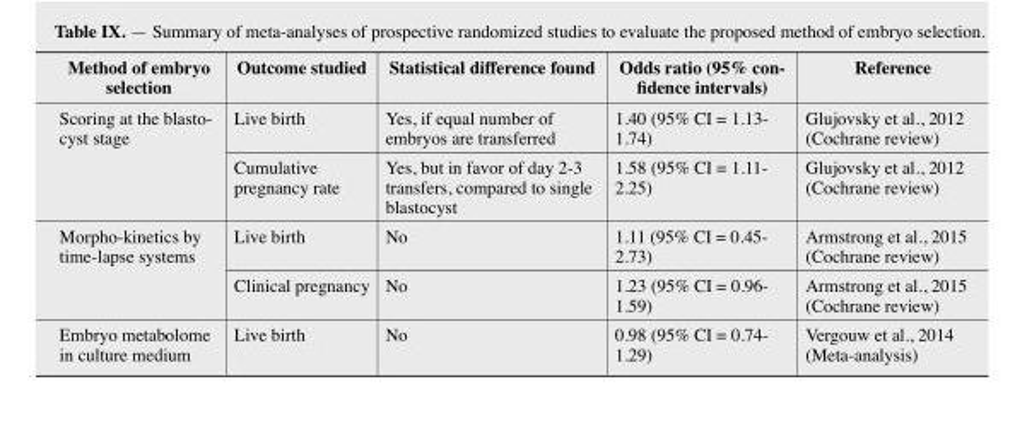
<table><thead><tr><td>Method of embryo selection</td><td>Outcome studied</td><td>Statistical difference found</td><td>Odds ratio (95% con- fidence intervals)</td><td>Reference</td></tr></thead><tbody><tr><td rowspan="2">Scoring at the blasto- cyst stage</td><td>Live birth</td><td>Yes, if equal number of embryos are transferred</td><td>1.40 (95% CI = 1.13- 1.74)</td><td>Glujovsky et al., 2012 (Cochrane review)</td></tr><tr><td>Cumulative pregnancy rate</td><td>Yes, but in favor of day 2-3 transfers, compared to single blastocyst</td><td>1.58 (95% CI = 1.11- 2.25)</td><td>Glujovsky et al., 2012 (Cochrane review)</td></tr><tr><td rowspan="2">Morpho-kinetics by time-lapse systems</td><td>Live birth</td><td>No</td><td>1.11 (95% CI = 0.45- 2.73)</td><td>Armstrong et al., 2015 (Cochrane review)</td></tr><tr><td>Clinical pregnancy</td><td>No</td><td>1.23 (95% CI = 0.96- 1.59)</td><td>Armstrong et al., 2015 (Cochrane review)</td></tr><tr><td>Embryo metabolome in culture medium</td><td>Live birth</td><td>No</td><td>0.98 (95% CI = 0.74- 1.29)</td><td>Vergouw et al., 2014 (Meta-analysis)</td></tr></tbody></table>